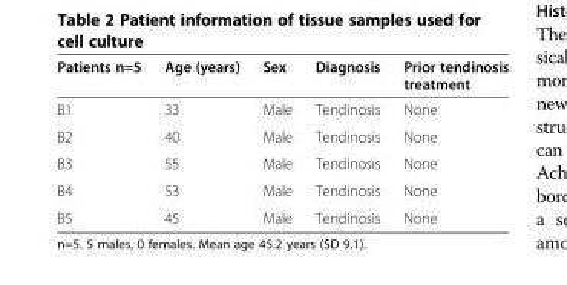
<table><thead><tr><td>Patients n=5</td><td>Age (years)</td><td>Sex</td><td>Diagnosis</td><td>Prior tendinosis treatment</td></tr></thead><tbody><tr><td>B1</td><td>33</td><td>Male</td><td>Tendinosis</td><td>None</td></tr><tr><td>B2</td><td>40</td><td>Male</td><td>Tendinosis</td><td>None</td></tr><tr><td>B3</td><td>55</td><td>Male</td><td>Tendinosis</td><td>None</td></tr><tr><td>B4</td><td>53</td><td>Male</td><td>Tendinosis</td><td>None</td></tr><tr><td>B5</td><td>45</td><td>Male</td><td>Tendinosis</td><td>None</td></tr></tbody></table>